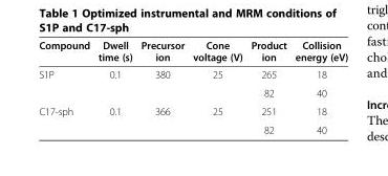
<table><thead><tr><td>Compound</td><td>Dwell time (s)</td><td>Precursor ion</td><td>Cone voltage (V)</td><td>Product ion</td><td>Collision energy (eV)</td></tr></thead><tbody><tr><td rowspan="2">S1P</td><td rowspan="2">0.1</td><td rowspan="2">380</td><td rowspan="2">25</td><td>265</td><td>18</td></tr><tr><td>82</td><td>40</td></tr><tr><td rowspan="2">C17-sph</td><td rowspan="2">0.1</td><td rowspan="2">366</td><td rowspan="2">25</td><td>251</td><td>18</td></tr><tr><td>82</td><td>40</td></tr></tbody></table>